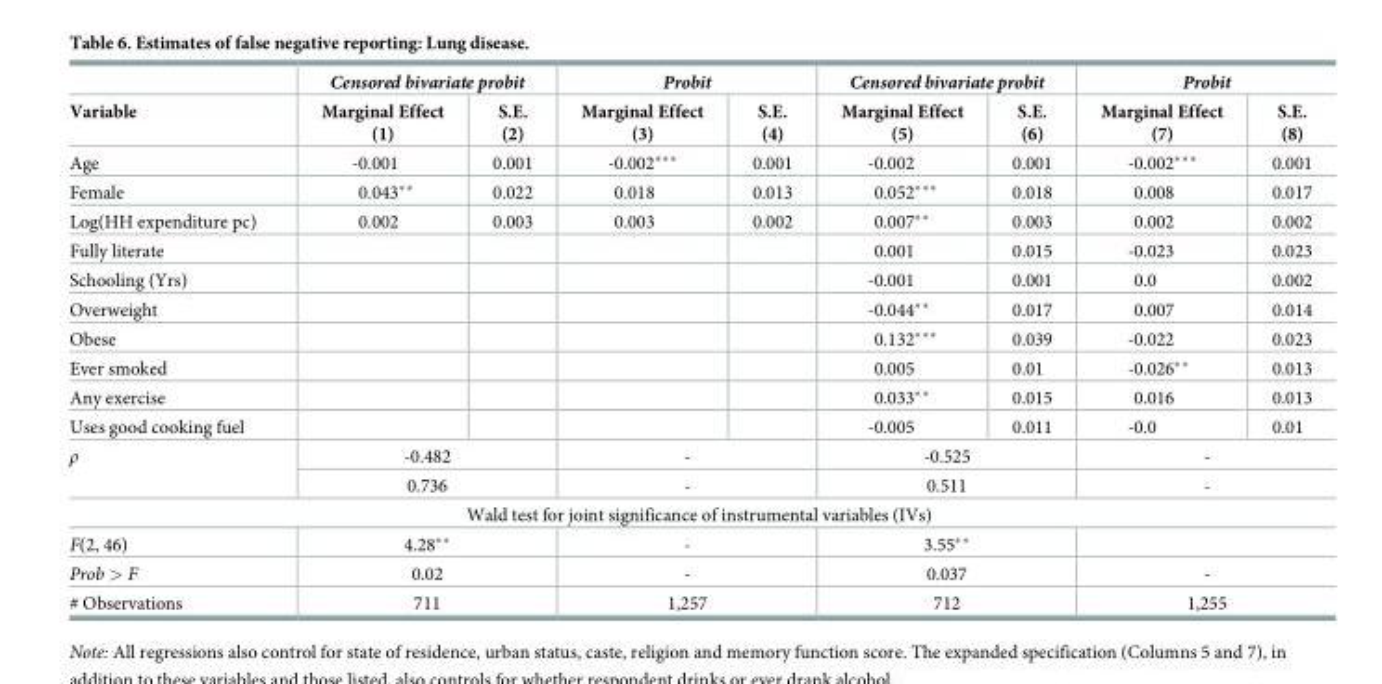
<table><thead><tr><td rowspan="2">Variable</td><td colspan="2">Censored bivariate probit</td><td colspan="2">Probit</td><td colspan="2">Censored bivariate probit</td><td colspan="2">Probit</td></tr><tr><td>Marginal Effect (1)</td><td>S.E. (2)</td><td>Marginal Effect (3)</td><td>S.E. (4)</td><td>Marginal Effect (5)</td><td>S.E. (6)</td><td>Marginal Effect (7)</td><td>S.E. (8)</td></tr></thead><tbody><tr><td>Age</td><td>-0.001</td><td>0.001</td><td>-0.002***</td><td>0.001</td><td>-0.002</td><td>0.001</td><td>-0.002***</td><td>0.001</td></tr><tr><td>Female</td><td>0.043**</td><td>0.022</td><td>0.018</td><td>0.013</td><td>0.052***</td><td>0.018</td><td>0.008</td><td>0.017</td></tr><tr><td>Log(HH expenditure pc)</td><td>0.002</td><td>0.003</td><td>0.003</td><td>0.002</td><td>0.007**</td><td>0.003</td><td>0.002</td><td>0.002</td></tr><tr><td>Fully literate</td><td></td><td></td><td></td><td></td><td>0.001</td><td>0.015</td><td>-0.023</td><td>0.023</td></tr><tr><td>Schooling (Yrs)</td><td></td><td></td><td></td><td></td><td>-0.001</td><td>0.001</td><td>0.0</td><td>0.002</td></tr><tr><td>Overweight</td><td></td><td></td><td></td><td></td><td>-0.044**</td><td>0.017</td><td>0.007</td><td>0.014</td></tr><tr><td>Obese</td><td></td><td></td><td></td><td></td><td>0.132***</td><td>0.039</td><td>-0.022</td><td>0.023</td></tr><tr><td>Ever smoked</td><td></td><td></td><td></td><td></td><td>0.005</td><td>0.01</td><td>-0.026**</td><td>0.013</td></tr><tr><td>Any exercise</td><td></td><td></td><td></td><td></td><td>0.033**</td><td>0.015</td><td>0.016</td><td>0.013</td></tr><tr><td>Uses good cooking fuel</td><td></td><td></td><td></td><td></td><td>-0.005</td><td>0.011</td><td>-0.0</td><td>0.01</td></tr><tr><td rowspan="2">ρ</td><td colspan="2">-0.482</td><td colspan="2">-</td><td colspan="2">-0.525</td><td colspan="2">-</td></tr><tr><td colspan="2">0.736</td><td colspan="2">-</td><td colspan="2">0.511</td><td colspan="2">-</td></tr><tr><td colspan="9">Wald test for joint significance of instrumental variables (IVs)</td></tr><tr><td>F(2, 46)</td><td colspan="2">4.28**</td><td colspan="2">-</td><td colspan="2">3.55**</td><td colspan="2"></td></tr><tr><td>Prob &gt; F</td><td colspan="2">0.02</td><td colspan="2">-</td><td colspan="2">0.037</td><td colspan="2">-</td></tr><tr><td># Observations</td><td colspan="2">711</td><td colspan="2">1,257</td><td colspan="2">712</td><td colspan="2">1,255</td></tr></tbody></table>